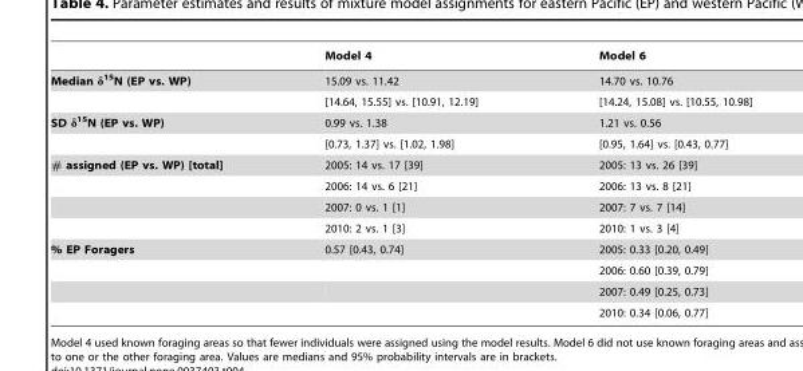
<table><thead><tr><td></td><td>Model 4</td><td>Model 6</td></tr></thead><tbody><tr><td rowspan="2">Median δ<sup>15</sup>N (EP vs. WP)</td><td>15.09 vs. 11.42</td><td>14.70 vs. 10.76</td></tr><tr><td>[14.64, 15.55] vs. [10.91, 12.19]</td><td>[14.24, 15.08] vs. [10.55, 10.98]</td></tr><tr><td rowspan="2">SD δ<sup>15</sup>N (EP vs. WP)</td><td>0.99 vs. 1.38</td><td>1.21 vs. 0.56</td></tr><tr><td>[0.73, 1.37] vs. [1.02, 1.98]</td><td>[0.95, 1.64] vs. [0.43, 0.77]</td></tr><tr><td rowspan="4"># assigned (EP vs. WP) [total]</td><td>2005: 14 vs. 17 [39]</td><td>2005: 13 vs. 26 [39]</td></tr><tr><td>2006: 14 vs. 6 [21]</td><td>2006: 13 vs. 8 [21]</td></tr><tr><td>2007: 0 vs. 1 [1]</td><td>2007: 7 vs. 7 [14]</td></tr><tr><td>2010: 2 vs. 1 [3]</td><td>2010: 1 vs. 3 [4]</td></tr><tr><td rowspan="4">% EP Foragers</td><td>0.57 [0.43, 0.74]</td><td>2005: 0.33 [0.20, 0.49]</td></tr><tr><td></td><td>2006: 0.60 [0.39, 0.79]</td></tr><tr><td></td><td>2007: 0.49 [0.25, 0.73]</td></tr><tr><td></td><td>2010: 0.34 [0.06, 0.77]</td></tr></tbody></table>